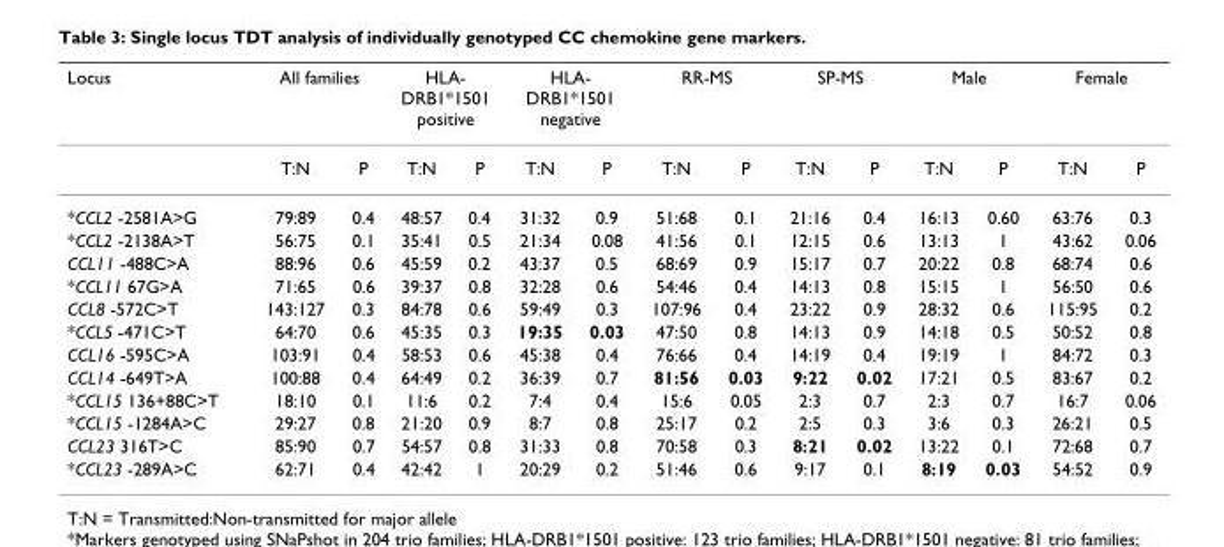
<table><thead><tr><td rowspan="2">Locus</td><td colspan="2">All families</td><td colspan="2">HLA- DRB1*1501 positive</td><td colspan="2">HLA- DRB1*1501 negative</td><td colspan="2">RR-MS</td><td colspan="2">SP-MS</td><td colspan="2">Male</td><td colspan="2">Female</td></tr><tr><td>T:N</td><td>P</td><td>T:N</td><td>P</td><td>T:N</td><td>P</td><td>T:N</td><td>P</td><td>T:N</td><td>P</td><td>T:N</td><td>P</td><td>T:N</td><td>P</td></tr></thead><tbody><tr><td>*CCL2 -2581A&gt;G</td><td>79:89</td><td>0.4</td><td>48:57</td><td>0.4</td><td>31:32</td><td>0.9</td><td>51:68</td><td>0.1</td><td>21:16</td><td>0.4</td><td>16:13</td><td>0.60</td><td>63:76</td><td>0.3</td></tr><tr><td>*CCL2 -2138A&gt;T</td><td>56:75</td><td>0.1</td><td>35:41</td><td>0.5</td><td>21:34</td><td>0.08</td><td>41:56</td><td>0.1</td><td>12:15</td><td>0.6</td><td>13:13</td><td>1</td><td>43:62</td><td>0.06</td></tr><tr><td>CCL11 -488C&gt;A</td><td>88:96</td><td>0.6</td><td>45:59</td><td>0.2</td><td>43:37</td><td>0.5</td><td>68:69</td><td>0.9</td><td>15:17</td><td>0.7</td><td>20:22</td><td>0.8</td><td>68:74</td><td>0.6</td></tr><tr><td>*CCL11 67G&gt;A</td><td>71:65</td><td>0.6</td><td>39:37</td><td>0.8</td><td>32:28</td><td>0.6</td><td>54:46</td><td>0.4</td><td>14:13</td><td>0.8</td><td>15:15</td><td>1</td><td>56:50</td><td>0.6</td></tr><tr><td>CCL8 -572C&gt;T</td><td>143:127</td><td>0.3</td><td>84:78</td><td>0.6</td><td>59:49</td><td>0.3</td><td>107:96</td><td>0.4</td><td>23:22</td><td>0.9</td><td>28:32</td><td>0.6</td><td>115:95</td><td>0.2</td></tr><tr><td>*CCL5 -471C&gt;T</td><td>64:70</td><td>0.6</td><td>45:35</td><td>0.3</td><td>19:35</td><td>0.03</td><td>47:50</td><td>0.8</td><td>14:13</td><td>0.9</td><td>14:18</td><td>0.5</td><td>50:52</td><td>0.8</td></tr><tr><td>CCL16 -595C&gt;A</td><td>103:91</td><td>0.4</td><td>58:53</td><td>0.6</td><td>45:38</td><td>0.4</td><td>76:66</td><td>0.4</td><td>14:19</td><td>0.4</td><td>19:19</td><td>1</td><td>84:72</td><td>0.3</td></tr><tr><td>CCL14 -649T&gt;A</td><td>100:88</td><td>0.4</td><td>64:49</td><td>0.2</td><td>36:39</td><td>0.7</td><td>81:56</td><td>0.03</td><td>9:22</td><td>0.02</td><td>17:21</td><td>0.5</td><td>83:67</td><td>0.2</td></tr><tr><td>*CCL15 136+88C&gt;T</td><td>18:10</td><td>0.1</td><td>11:6</td><td>0.2</td><td>7:4</td><td>0.4</td><td>15:6</td><td>0.05</td><td>2:3</td><td>0.7</td><td>2:3</td><td>0.7</td><td>16:7</td><td>0.06</td></tr><tr><td>*CCL15 -1284A&gt;C</td><td>29:27</td><td>0.8</td><td>21:20</td><td>0.9</td><td>8:7</td><td>0.8</td><td>25:17</td><td>0.2</td><td>2:5</td><td>0.3</td><td>3:6</td><td>0.3</td><td>26:21</td><td>0.5</td></tr><tr><td>CCL23 316T&gt;C</td><td>85:90</td><td>0.7</td><td>54:57</td><td>0.8</td><td>31:33</td><td>0.8</td><td>70:58</td><td>0.3</td><td>8:21</td><td>0.02</td><td>13:22</td><td>0.1</td><td>72:68</td><td>0.7</td></tr><tr><td>*CCL23 -289A&gt;C</td><td>62:71</td><td>0.4</td><td>42:42</td><td>1</td><td>20:29</td><td>0.2</td><td>51:46</td><td>0.6</td><td>9:17</td><td>0.1</td><td>8:19</td><td>0.03</td><td>54:52</td><td>0.9</td></tr></tbody></table>